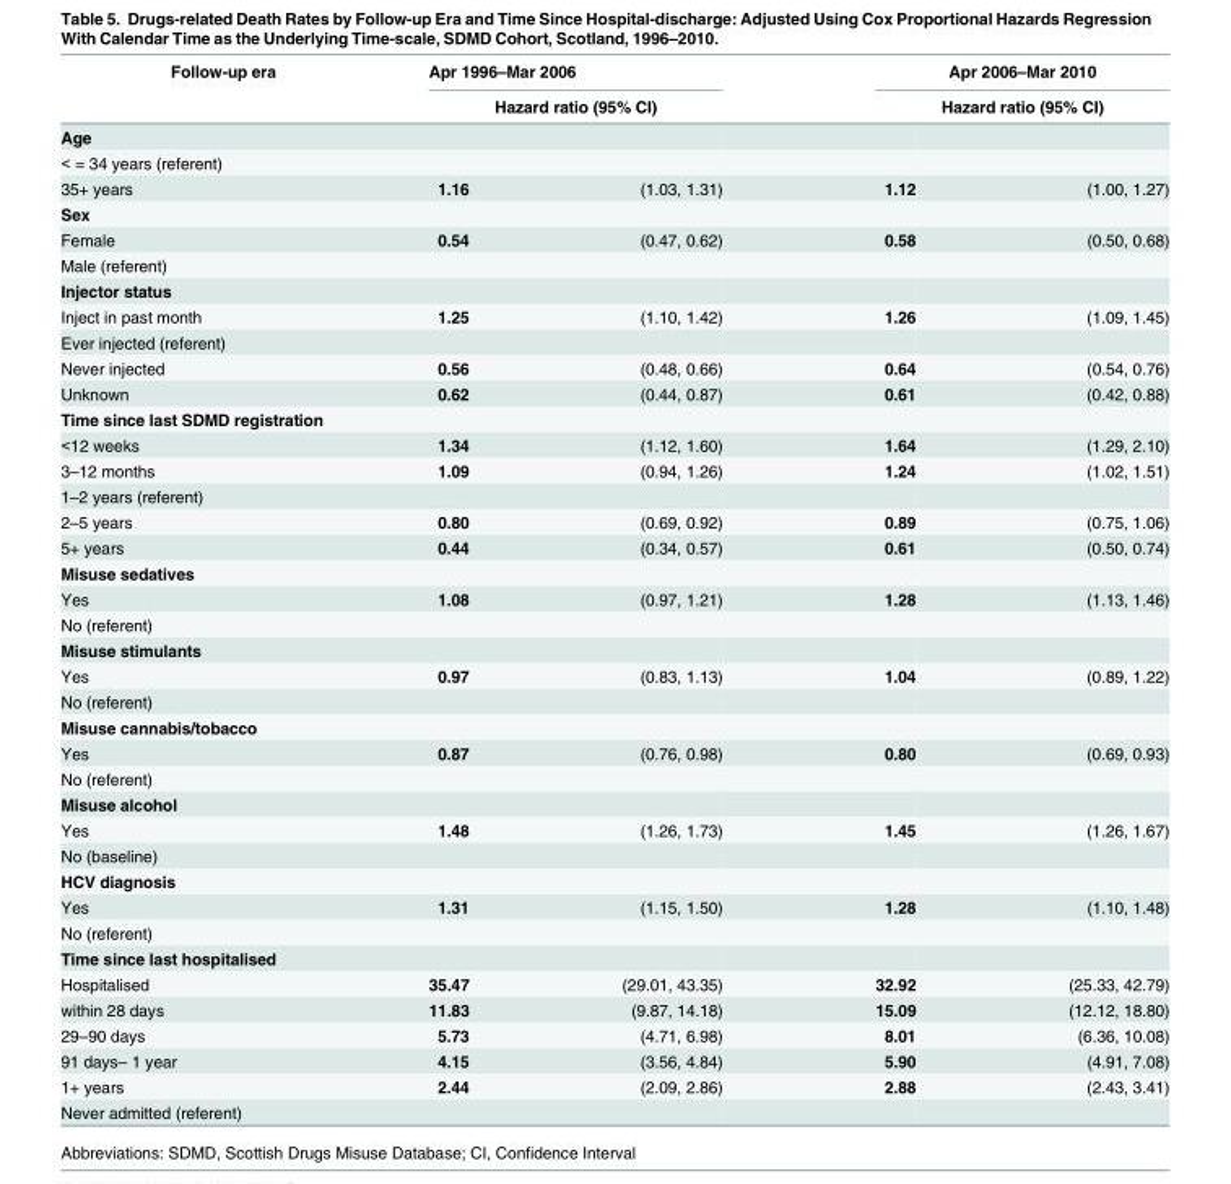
<table><thead><tr><td rowspan="3">Follow-up era Age</td><td rowspan="2" colspan="2">Apr 1996–Mar 2006 Hazard ratio (95% CI)</td><td rowspan="2" colspan="2">Apr 2006–Mar 2010 Hazard ratio (95% CI)</td></tr><tr></tr><tr><td></td><td></td><td></td><td></td></tr></thead><tbody><tr><td colspan="5">&lt; = 34 years (referent)</td></tr><tr><td>35+ years</td><td>1.16</td><td>(1.03, 1.31)</td><td>1.12</td><td>(1.00, 1.27)</td></tr><tr><td colspan="5">Sex</td></tr><tr><td>Female</td><td>0.54</td><td>(0.47, 0.62)</td><td>0.58</td><td>(0.50, 0.68)</td></tr><tr><td colspan="5">Male (referent)</td></tr><tr><td colspan="5">Injector status</td></tr><tr><td>Inject in past month</td><td>1.25</td><td>(1.10, 1.42)</td><td>1.26</td><td>(1.09, 1.45)</td></tr><tr><td colspan="5">Ever injected (referent)</td></tr><tr><td>Never injected</td><td>0.56</td><td>(0.48, 0.66)</td><td>0.64</td><td>(0.54, 0.76)</td></tr><tr><td>Unknown</td><td>0.62</td><td>(0.44, 0.87)</td><td>0.61</td><td>(0.42, 0.88)</td></tr><tr><td colspan="5">Time since last SDMD registration</td></tr><tr><td>&lt;12 weeks</td><td>1.34</td><td>(1.12, 1.60)</td><td>1.64</td><td>(1.29, 2.10)</td></tr><tr><td>3–12 months</td><td>1.09</td><td>(0.94, 1.26)</td><td>1.24</td><td>(1.02, 1.51)</td></tr><tr><td colspan="5">1–2 years (referent)</td></tr><tr><td>2–5 years</td><td>0.80</td><td>(0.69, 0.92)</td><td>0.89</td><td>(0.75, 1.06)</td></tr><tr><td>5+ years</td><td>0.44</td><td>(0.34, 0.57)</td><td>0.61</td><td>(0.50, 0.74)</td></tr><tr><td colspan="5">Misuse sedatives</td></tr><tr><td>Yes</td><td>1.08</td><td>(0.97, 1.21)</td><td>1.28</td><td>(1.13, 1.46)</td></tr><tr><td colspan="5">No (referent)</td></tr><tr><td colspan="5">Misuse stimulants</td></tr><tr><td>Yes</td><td>0.97</td><td>(0.83, 1.13)</td><td>1.04</td><td>(0.89, 1.22)</td></tr><tr><td colspan="5">No (referent)</td></tr><tr><td colspan="5">Misuse cannabis/tobacco</td></tr><tr><td>Yes</td><td>0.87</td><td>(0.76, 0.98)</td><td>0.80</td><td>(0.69, 0.93)</td></tr><tr><td colspan="5">No (referent)</td></tr><tr><td colspan="5">Misuse alcohol</td></tr><tr><td>Yes</td><td>1.48</td><td>(1.26, 1.73)</td><td>1.45</td><td>(1.26, 1.67)</td></tr><tr><td colspan="5">No (baseline)</td></tr><tr><td colspan="5">HCV diagnosis</td></tr><tr><td>Yes</td><td>1.31</td><td>(1.15, 1.50)</td><td>1.28</td><td>(1.10, 1.48)</td></tr><tr><td colspan="5">No (referent)</td></tr><tr><td colspan="5">Time since last hospitalised</td></tr><tr><td>Hospitalised</td><td>35.47</td><td>(29.01, 43.35)</td><td>32.92</td><td>(25.33, 42.79)</td></tr><tr><td>within 28 days</td><td>11.83</td><td>(9.87, 14.18)</td><td>15.09</td><td>(12.12, 18.80)</td></tr><tr><td>29–90 days</td><td>5.73</td><td>(4.71, 6.98)</td><td>8.01</td><td>(6.36, 10.08)</td></tr><tr><td>91 days– 1 year</td><td>4.15</td><td>(3.56, 4.84)</td><td>5.90</td><td>(4.91, 7.08)</td></tr><tr><td>1+ years</td><td>2.44</td><td>(2.09, 2.86)</td><td>2.88</td><td>(2.43, 3.41)</td></tr><tr><td>Never admitted (referent)</td><td></td><td></td><td></td><td></td></tr></tbody></table>